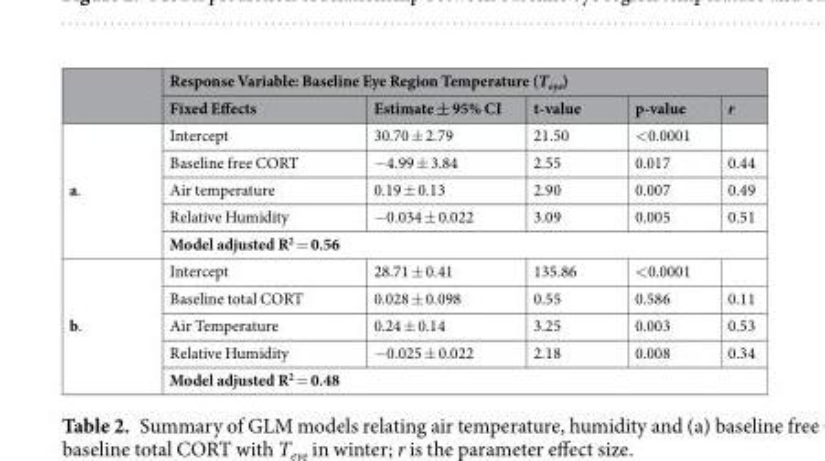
<table><thead><tr><td rowspan="2"></td><td colspan="5">Response Variable: Baseline Eye Region Temperature (T<sub>eye</sub>)</td></tr><tr><td>Fixed Effects</td><td>Estimate ± 95% CI</td><td>t-value</td><td>p-value</td><td>r</td></tr></thead><tbody><tr><td rowspan="5">a.</td><td>Intercept</td><td>30.70 ± 2.79</td><td>21.50</td><td>&lt;0.0001</td><td></td></tr><tr><td>Baseline free CORT</td><td>−4.99 ± 3.84</td><td>2.55</td><td>0.017</td><td>0.44</td></tr><tr><td>Air temperature</td><td>0.19 ± 0.13</td><td>2.90</td><td>0.007</td><td>0.49</td></tr><tr><td>Relative Humidity</td><td>−0.034 ± 0.022</td><td>3.09</td><td>0.005</td><td>0.51</td></tr><tr><td colspan="5">Model adjusted R<sup>2</sup> = 0.56</td></tr><tr><td rowspan="5">b.</td><td>Intercept</td><td>28.71 ± 0.41</td><td>135.86</td><td>&lt;0.0001</td><td></td></tr><tr><td>Baseline total CORT</td><td>0.028 ± 0.098</td><td>0.55</td><td>0.586</td><td>0.11</td></tr><tr><td>Air Temperature</td><td>0.24 ± 0.14</td><td>3.25</td><td>0.003</td><td>0.53</td></tr><tr><td>Relative Humidity</td><td>−0.025 ± 0.022</td><td>2.18</td><td>0.008</td><td>0.34</td></tr><tr><td colspan="5">Model adjusted R<sup>2</sup> = 0.48</td></tr></tbody></table>